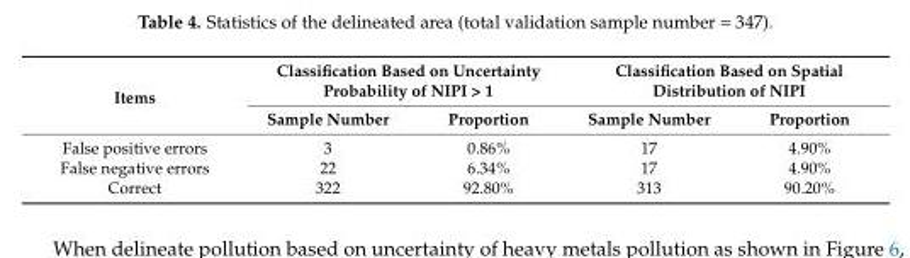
<table><thead><tr><td rowspan="2">Items</td><td colspan="2">Classification Based on Uncertainty Probability of NIPI &gt; 1</td><td colspan="2">Classification Based on Spatial Distribution of NIPI</td></tr><tr><td>Sample Number</td><td>Proportion</td><td>Sample Number</td><td>Proportion</td></tr></thead><tbody><tr><td>False positive errors</td><td>3</td><td>0.86%</td><td>17</td><td>4.90%</td></tr><tr><td>False negative errors</td><td>22</td><td>6.34%</td><td>17</td><td>4.90%</td></tr><tr><td>Correct</td><td>322</td><td>92.80%</td><td>313</td><td>90.20%</td></tr></tbody></table>